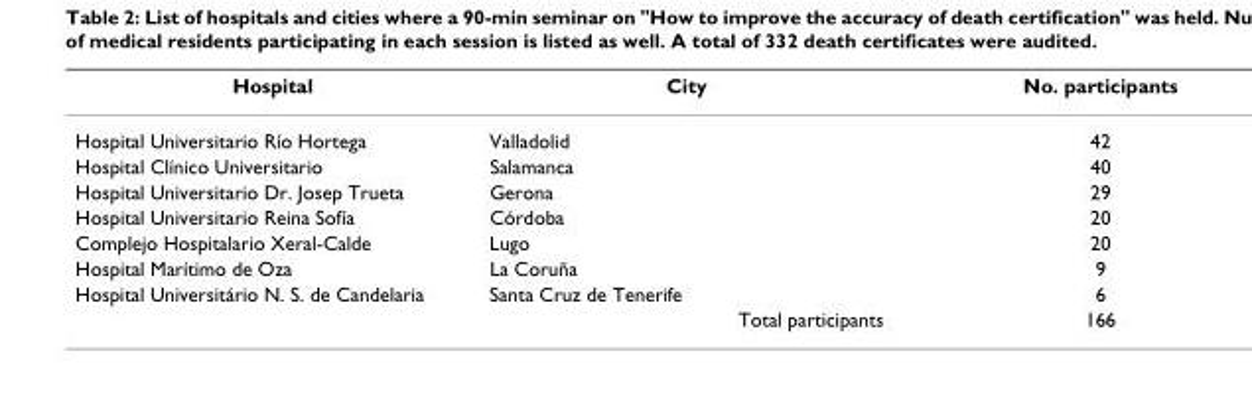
<table><thead><tr><td>Hospital</td><td>City</td><td>No. participants</td></tr></thead><tbody><tr><td>Hospital Universitario Río Hortega</td><td>Valladolid</td><td>42</td></tr><tr><td>Hospital Clínico Universitario</td><td>Salamanca</td><td>40</td></tr><tr><td>Hospital Universitario Dr. Josep Trueta</td><td>Gerona</td><td>29</td></tr><tr><td>Hospital Universitario Reina Sofía</td><td>Córdoba</td><td>20</td></tr><tr><td>Complejo Hospitalario Xeral-Calde</td><td>Lugo</td><td>20</td></tr><tr><td>Hospital Marítimo de Oza</td><td>La Coruña</td><td>9</td></tr><tr><td rowspan="2">Hospital Universitário N. S. de Candelaria</td><td>Santa Cruz de Tenerife</td><td>6</td></tr><tr><td>Total participants</td><td>166</td></tr></tbody></table>